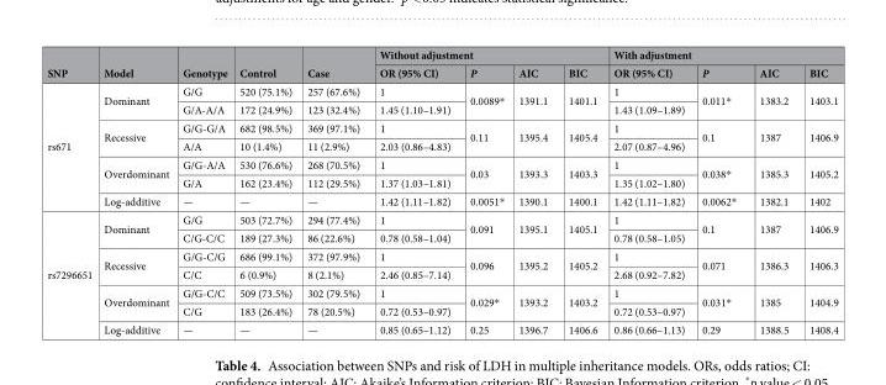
<table><thead><tr><td rowspan="2">SNP</td><td rowspan="2">Model</td><td rowspan="2">Genotype</td><td rowspan="2">Control</td><td rowspan="2">Case</td><td colspan="4">Without adjustment</td><td colspan="4">With adjustment</td></tr><tr><td>OR (95% CI)</td><td>P</td><td>AIC</td><td>BIC</td><td>OR (95% CI)</td><td>P</td><td>AIC</td><td>BIC</td></tr></thead><tbody><tr><td rowspan="7">rs671</td><td rowspan="2">Dominant</td><td>G/G</td><td>520 (75.1%)</td><td>257 (67.6%)</td><td>1</td><td rowspan="2">0.0089*</td><td rowspan="2">1391.1</td><td rowspan="2">1401.1</td><td>1</td><td rowspan="2">0.011*</td><td rowspan="2">1383.2</td><td rowspan="2">1403.1</td></tr><tr><td>G/A-A/A</td><td>172 (24.9%)</td><td>123 (32.4%)</td><td>1.45 (1.10–1.91)</td><td>1.43 (1.09–1.89)</td></tr><tr><td rowspan="2">Recessive</td><td>G/G-G/A</td><td>682 (98.5%)</td><td>369 (97.1%)</td><td>1</td><td rowspan="2">0.11</td><td rowspan="2">1395.4</td><td rowspan="2">1405.4</td><td>1</td><td rowspan="2">0.1</td><td rowspan="2">1387</td><td rowspan="2">1406.9</td></tr><tr><td>A/A</td><td>10 (1.4%)</td><td>11 (2.9%)</td><td>2.03 (0.86–4.83)</td><td>2.07 (0.87–4.96)</td></tr><tr><td rowspan="2">Overdominant</td><td>G/G-A/A</td><td>530 (76.6%)</td><td>268 (70.5%)</td><td>1</td><td rowspan="2">0.03</td><td rowspan="2">1393.3</td><td rowspan="2">1403.3</td><td>1</td><td rowspan="2">0.038*</td><td rowspan="2">1385.3</td><td rowspan="2">1405.2</td></tr><tr><td>G/A</td><td>162 (23.4%)</td><td>112 (29.5%)</td><td>1.37 (1.03–1.81)</td><td>1.35 (1.02–1.80)</td></tr><tr><td>Log-additive</td><td>—</td><td>—</td><td>—</td><td>1.42 (1.11–1.82)</td><td>0.0051*</td><td>1390.1</td><td>1400.1</td><td>1.42 (1.11–1.82)</td><td>0.0062*</td><td>1382.1</td><td>1402</td></tr><tr><td rowspan="7">rs7296651</td><td rowspan="2">Dominant</td><td>G/G</td><td>503 (72.7%)</td><td>294 (77.4%)</td><td>1</td><td rowspan="2">0.091</td><td rowspan="2">1395.1</td><td rowspan="2">1405.1</td><td>1</td><td rowspan="2">0.1</td><td rowspan="2">1387</td><td rowspan="2">1406.9</td></tr><tr><td>C/G-C/C</td><td>189 (27.3%)</td><td>86 (22.6%)</td><td>0.78 (0.58–1.04)</td><td>0.78 (0.58–1.05)</td></tr><tr><td rowspan="2">Recessive</td><td>G/G-C/G</td><td>686 (99.1%)</td><td>372 (97.9%)</td><td>1</td><td rowspan="2">0.096</td><td rowspan="2">1395.2</td><td rowspan="2">1405.2</td><td>1</td><td rowspan="2">0.071</td><td rowspan="2">1386.3</td><td rowspan="2">1406.3</td></tr><tr><td>C/C</td><td>6 (0.9%)</td><td>8 (2.1%)</td><td>2.46 (0.85–7.14)</td><td>2.68 (0.92–7.82)</td></tr><tr><td rowspan="2">Overdominant</td><td>G/G-C/C</td><td>509 (73.5%)</td><td>302 (79.5%)</td><td>1</td><td rowspan="2">0.029*</td><td rowspan="2">1393.2</td><td rowspan="2">1403.2</td><td>1</td><td rowspan="2">0.031*</td><td rowspan="2">1385</td><td rowspan="2">1404.9</td></tr><tr><td>C/G</td><td>183 (26.4%)</td><td>78 (20.5%)</td><td>0.72 (0.53–0.97)</td><td>0.72 (0.53–0.97)</td></tr><tr><td>Log-additive</td><td>—</td><td>—</td><td>—</td><td>0.85 (0.65–1.12)</td><td>0.25</td><td>1396.7</td><td>1406.6</td><td>0.86 (0.66–1.13)</td><td>0.29</td><td>1388.5</td><td>1408.4</td></tr></tbody></table>